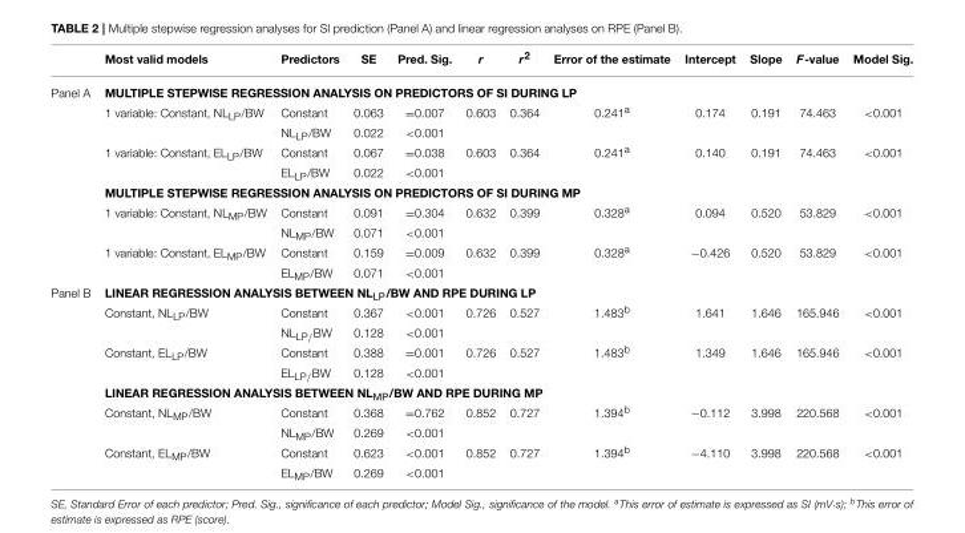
<table><thead><tr><td></td><td>Most valid models</td><td>Predictors</td><td>SE</td><td>Pred. Sig.</td><td>r</td><td>r<sup>2</sup></td><td>Error of the estimate</td><td>Intercept</td><td>Slope</td><td>F-value</td><td>Model Sig.</td></tr></thead><tbody><tr><td rowspan="10">Panel A</td><td colspan="11">MULTIPLE STEPWISE REGRESSION ANALYSIS ON PREDICTORS OF SI DURING LP</td></tr><tr><td>1 variable: Constant, NL<sub>LP</sub>/BW</td><td>Constant</td><td>0.063</td><td>=0.007</td><td>0.603</td><td>0.364</td><td>0.241<sup>a</sup></td><td>0.174</td><td>0.191</td><td>74.463</td><td>&lt;0.001</td></tr><tr><td></td><td>NL<sub>LP</sub>/BW</td><td>0.022</td><td>&lt;0.001</td><td></td><td></td><td></td><td></td><td></td><td></td><td></td></tr><tr><td>1 variable: Constant, EL<sub>LP</sub>/BW</td><td>Constant</td><td>0.067</td><td>=0.038</td><td>0.603</td><td>0.364</td><td>0.241<sup>a</sup></td><td>0.140</td><td>0.191</td><td>74.463</td><td>&lt;0.001</td></tr><tr><td></td><td>EL<sub>LP</sub>/BW</td><td>0.022</td><td>&lt;0.001</td><td></td><td></td><td></td><td></td><td></td><td></td><td></td></tr><tr><td colspan="11">MULTIPLE STEPWISE REGRESSION ANALYSIS ON PREDICTORS OF SI DURING MP</td></tr><tr><td>1 variable: Constant, NL<sub>MP</sub>/BW</td><td>Constant</td><td>0.091</td><td>=0.304</td><td>0.632</td><td>0.399</td><td>0.328<sup>a</sup></td><td>0.094</td><td>0.520</td><td>53.829</td><td>&lt;0.001</td></tr><tr><td></td><td>NL<sub>MP</sub>/BW</td><td>0.071</td><td>&lt;0.001</td><td></td><td></td><td></td><td></td><td></td><td></td><td></td></tr><tr><td>1 variable: Constant, EL<sub>MP</sub>/BW</td><td>Constant</td><td>0.159</td><td>=0.009</td><td>0.632</td><td>0.399</td><td>0.328<sup>a</sup></td><td>−0.426</td><td>0.520</td><td>53.829</td><td>&lt;0.001</td></tr><tr><td></td><td>EL<sub>MP</sub>/BW</td><td>0.071</td><td>&lt;0.001</td><td></td><td></td><td></td><td></td><td></td><td></td><td></td></tr><tr><td rowspan="10">Panel B</td><td colspan="11">LINEAR REGRESSION ANALYSIS BETWEEN NL<sub>LP</sub>/BW AND RPE DURING LP</td></tr><tr><td>Constant, NL<sub>LP</sub>/BW</td><td>Constant</td><td>0.367</td><td>&lt;0.001</td><td>0.726</td><td>0.527</td><td>1.483<sup>b</sup></td><td>1.641</td><td>1.646</td><td>165.946</td><td>&lt;0.001</td></tr><tr><td></td><td>NL<sub>LP/</sub>BW</td><td>0.128</td><td>&lt;0.001</td><td></td><td></td><td></td><td></td><td></td><td></td><td></td></tr><tr><td>Constant, EL<sub>LP</sub>/BW</td><td>Constant</td><td>0.388</td><td>=0.001</td><td>0.726</td><td>0.527</td><td>1.483<sup>b</sup></td><td>1.349</td><td>1.646</td><td>165.946</td><td>&lt;0.001</td></tr><tr><td></td><td>EL<sub>LP/</sub>BW</td><td>0.128</td><td>&lt;0.001</td><td></td><td></td><td></td><td></td><td></td><td></td><td></td></tr><tr><td colspan="11">LINEAR REGRESSION ANALYSIS BETWEEN NL<sub>MP</sub>/BW AND RPE DURING MP</td></tr><tr><td>Constant, NL<sub>MP</sub>/BW</td><td>Constant</td><td>0.368</td><td>=0.762</td><td>0.852</td><td>0.727</td><td>1.394<sup>b</sup></td><td>−0.112</td><td>3.998</td><td>220.568</td><td>&lt;0.001</td></tr><tr><td></td><td>NL<sub>MP</sub>/BW</td><td>0.269</td><td>&lt;0.001</td><td></td><td></td><td></td><td></td><td></td><td></td><td></td></tr><tr><td>Constant, EL<sub>MP</sub>/BW</td><td>Constant</td><td>0.623</td><td>&lt;0.001</td><td>0.852</td><td>0.727</td><td>1.394<sup>b</sup></td><td>−4.110</td><td>3.998</td><td>220.568</td><td>&lt;0.001</td></tr><tr><td></td><td>EL<sub>MP</sub>/BW</td><td>0.269</td><td>&lt;0.001</td><td></td><td></td><td></td><td></td><td></td><td></td><td></td></tr></tbody></table>